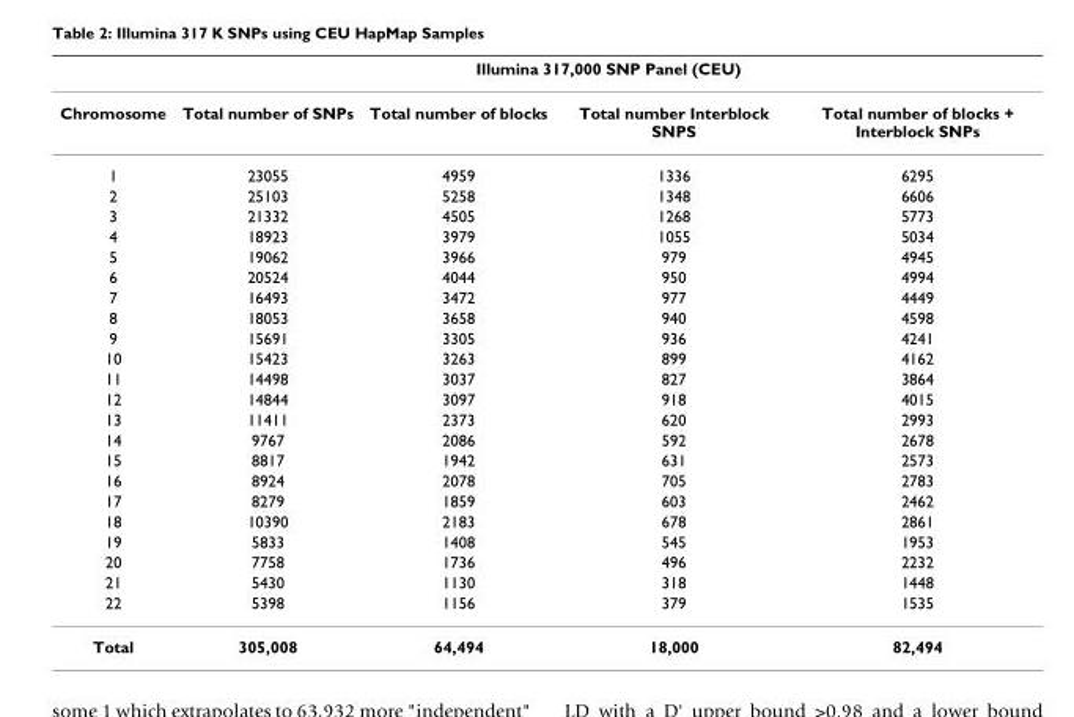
<table><thead><tr><td rowspan="2">Chromosome</td><td colspan="4">Illumina 317,000 SNP Panel (CEU)</td></tr><tr><td>Total number of SNPs</td><td>Total number of blocks</td><td>Total number Interblock SNPS</td><td>Total number of blocks + Interblock SNPs</td></tr></thead><tbody><tr><td>1</td><td>23055</td><td>4959</td><td>1336</td><td>6295</td></tr><tr><td>2</td><td>25103</td><td>5258</td><td>1348</td><td>6606</td></tr><tr><td>3</td><td>21332</td><td>4505</td><td>1268</td><td>5773</td></tr><tr><td>4</td><td>18923</td><td>3979</td><td>1055</td><td>5034</td></tr><tr><td>5</td><td>19062</td><td>3966</td><td>979</td><td>4945</td></tr><tr><td>6</td><td>20524</td><td>4044</td><td>950</td><td>4994</td></tr><tr><td>7</td><td>16493</td><td>3472</td><td>977</td><td>4449</td></tr><tr><td>8</td><td>18053</td><td>3658</td><td>940</td><td>4598</td></tr><tr><td>9</td><td>15691</td><td>3305</td><td>936</td><td>4241</td></tr><tr><td>10</td><td>15423</td><td>3263</td><td>899</td><td>4162</td></tr><tr><td>11</td><td>14498</td><td>3037</td><td>827</td><td>3864</td></tr><tr><td>12</td><td>14844</td><td>3097</td><td>918</td><td>4015</td></tr><tr><td>13</td><td>11411</td><td>2373</td><td>620</td><td>2993</td></tr><tr><td>14</td><td>9767</td><td>2086</td><td>592</td><td>2678</td></tr><tr><td>15</td><td>8817</td><td>1942</td><td>631</td><td>2573</td></tr><tr><td>16</td><td>8924</td><td>2078</td><td>705</td><td>2783</td></tr><tr><td>17</td><td>8279</td><td>1859</td><td>603</td><td>2462</td></tr><tr><td>18</td><td>10390</td><td>2183</td><td>678</td><td>2861</td></tr><tr><td>19</td><td>5833</td><td>1408</td><td>545</td><td>1953</td></tr><tr><td>20</td><td>7758</td><td>1736</td><td>496</td><td>2232</td></tr><tr><td>21</td><td>5430</td><td>1130</td><td>318</td><td>1448</td></tr><tr><td>22</td><td>5398</td><td>1156</td><td>379</td><td>1535</td></tr><tr><td>Total</td><td>305,008</td><td>64,494</td><td>18,000</td><td>82,494</td></tr></tbody></table>